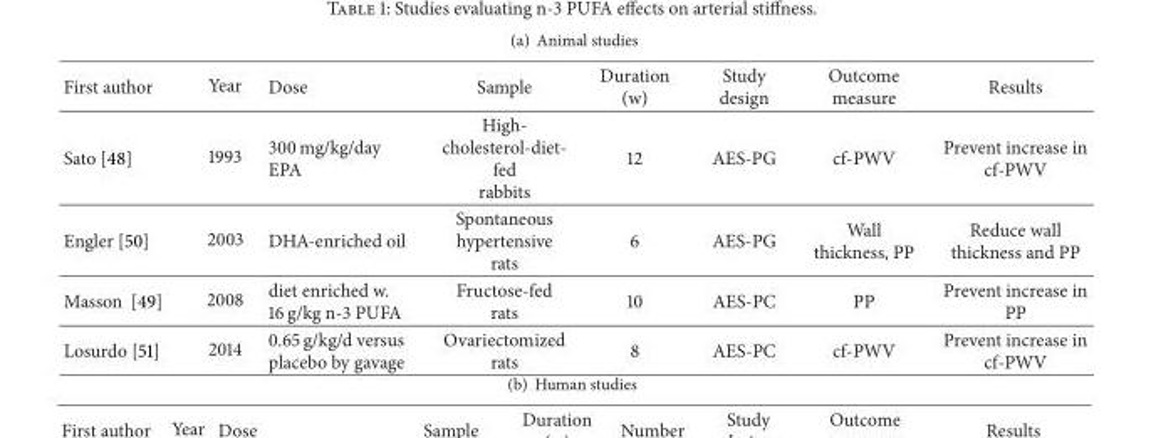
<table><thead><tr><td>First author</td><td>Year</td><td>Dose</td><td>Sample</td><td>Duration (w)</td><td>Study design</td><td>Outcome measure</td><td>Results</td></tr></thead><tbody><tr><td>Sato [48]</td><td>1993</td><td>300 mg/kg/day EPA</td><td>High- cholesterol-diet- fed rabbits</td><td>12</td><td>AES-PG</td><td>cf-PWV</td><td>Prevent increase in cf-PWV</td></tr><tr><td>Engler [50]</td><td>2003</td><td>DHA-enriched oil</td><td>Spontaneous hypertensive rats</td><td>6</td><td>AES-PG</td><td>Wall thickness, PP</td><td>Reduce wall thickness and PP</td></tr><tr><td>Masson [49]</td><td>2008</td><td>diet enriched w. 16 g/kg n-3 PUFA</td><td>Fructose-fed rats</td><td>10</td><td>AES-PC</td><td>PP</td><td>Prevent increase in PP</td></tr><tr><td>Losurdo [51]</td><td>2014</td><td>0.65 g/kg/d versus placebo by gavage</td><td>Ovariectomized rats</td><td>8</td><td>AES-PC</td><td>cf-PWV</td><td>Prevent increase in cf-PWV</td></tr></tbody></table>